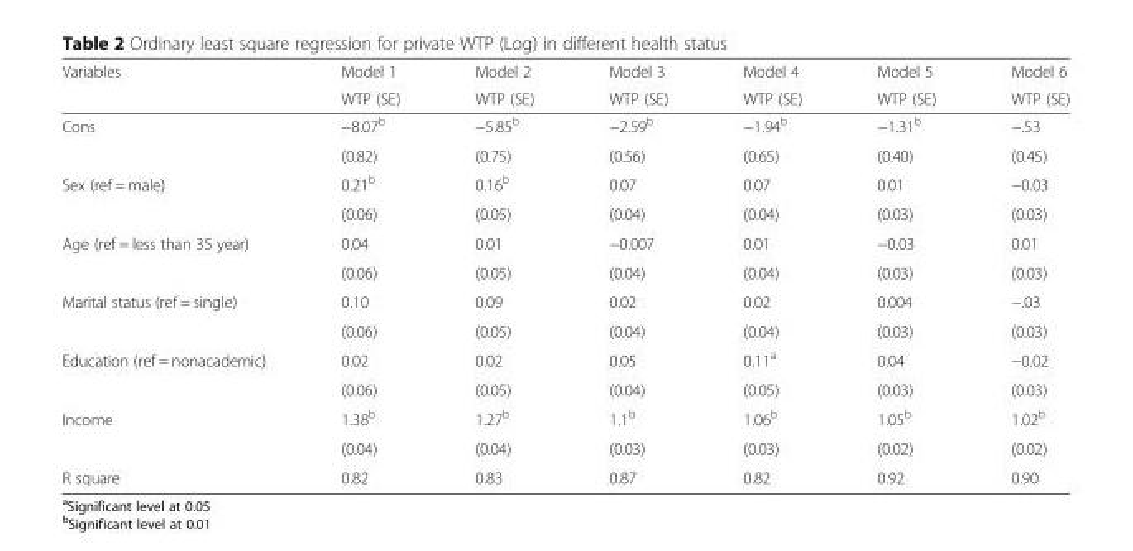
<table><thead><tr><td rowspan="2">Variables</td><td rowspan="2">Model 1 WTP (SE)</td><td rowspan="2">Model 2 WTP (SE)</td><td rowspan="2">Model 3 WTP (SE)</td><td rowspan="2">Model 4 WTP (SE)</td><td rowspan="2">Model 5 WTP (SE)</td><td rowspan="2">Model 6 WTP (SE)</td></tr><tr></tr></thead><tbody><tr><td rowspan="2">Cons</td><td>−8.07<sup>b</sup></td><td>−5.85<sup>b</sup></td><td>−2.59<sup>b</sup></td><td>−1.94<sup>b</sup></td><td>−1.31<sup>b</sup></td><td>−.53</td></tr><tr><td>(0.82)</td><td>(0.75)</td><td>(0.56)</td><td>(0.65)</td><td>(0.40)</td><td>(0.45)</td></tr><tr><td rowspan="2">Sex (ref = male)</td><td>0.21<sup>b</sup></td><td>0.16<sup>b</sup></td><td>0.07</td><td>0.07</td><td>0.01</td><td>−0.03</td></tr><tr><td>(0.06)</td><td>(0.05)</td><td>(0.04)</td><td>(0.04)</td><td>(0.03)</td><td>(0.03)</td></tr><tr><td rowspan="2">Age (ref = less than 35 year)</td><td>0.04</td><td>0.01</td><td>−0.007</td><td>0.01</td><td>−0.03</td><td>0.01</td></tr><tr><td>(0.06)</td><td>(0.05)</td><td>(0.04)</td><td>(0.04)</td><td>(0.03)</td><td>(0.03)</td></tr><tr><td rowspan="2">Marital status (ref = single)</td><td>0.10</td><td>0.09</td><td>0.02</td><td>0.02</td><td>0.004</td><td>−.03</td></tr><tr><td>(0.06)</td><td>(0.05)</td><td>(0.04)</td><td>(0.04)</td><td>(0.03)</td><td>(0.03)</td></tr><tr><td rowspan="2">Education (ref = nonacademic)</td><td>0.02</td><td>0.02</td><td>0.05</td><td>0.11<sup>a</sup></td><td>0.04</td><td>−0.02</td></tr><tr><td>(0.06)</td><td>(0.05)</td><td>(0.04)</td><td>(0.05)</td><td>(0.03)</td><td>(0.03)</td></tr><tr><td rowspan="2">Income</td><td>1.38<sup>b</sup></td><td>1.27<sup>b</sup></td><td>1.1<sup>b</sup></td><td>1.06<sup>b</sup></td><td>1.05<sup>b</sup></td><td>1.02<sup>b</sup></td></tr><tr><td>(0.04)</td><td>(0.04)</td><td>(0.03)</td><td>(0.03)</td><td>(0.02)</td><td>(0.02)</td></tr><tr><td>R square</td><td>0.82</td><td>0.83</td><td>0.87</td><td>0.82</td><td>0.92</td><td>0.90</td></tr></tbody></table>